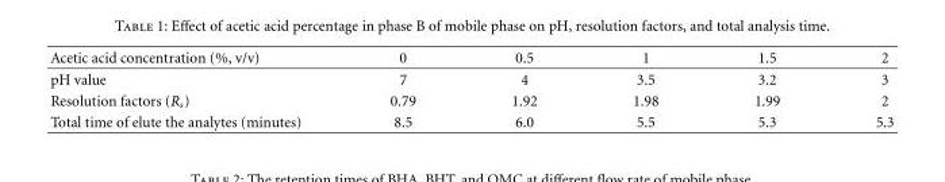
<table><thead><tr><td>Acetic acid concentration (%, v/v)</td><td>0</td><td>0.5</td><td>1</td><td>1.5</td><td>2</td></tr></thead><tbody><tr><td>pH value</td><td>7</td><td>4</td><td>3.5</td><td>3.2</td><td>3</td></tr><tr><td>Resolution factors (R<sub>s</sub>)</td><td>0.79</td><td>1.92</td><td>1.98</td><td>1.99</td><td>2</td></tr><tr><td>Total time of elute the analytes (minutes)</td><td>8.5</td><td>6.0</td><td>5.5</td><td>5.3</td><td>5.3</td></tr></tbody></table>